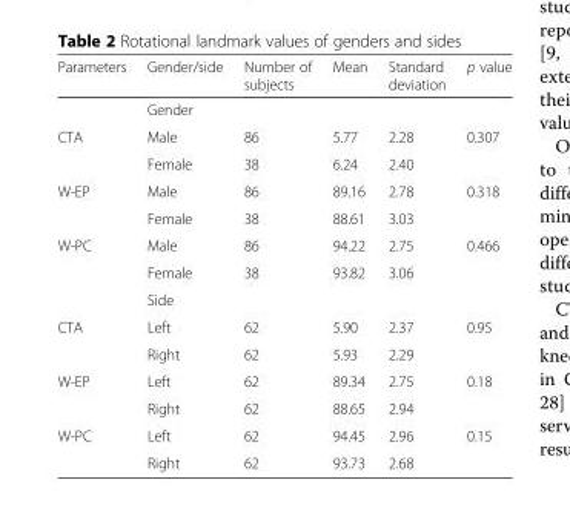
<table><thead><tr><td>Parameters</td><td>Gender/side</td><td>Number of subjects</td><td>Mean</td><td>Standard deviation</td><td>p value</td></tr></thead><tbody><tr><td></td><td>Gender</td><td></td><td></td><td></td><td></td></tr><tr><td rowspan="2">CTA</td><td>Male</td><td>86</td><td>5.77</td><td>2.28</td><td rowspan="2">0.307</td></tr><tr><td>Female</td><td>38</td><td>6.24</td><td>2.40</td></tr><tr><td rowspan="2">W-EP</td><td>Male</td><td>86</td><td>89.16</td><td>2.78</td><td rowspan="2">0.318</td></tr><tr><td>Female</td><td>38</td><td>88.61</td><td>3.03</td></tr><tr><td rowspan="3">W-PC</td><td>Male</td><td>86</td><td>94.22</td><td>2.75</td><td rowspan="2">0.466</td></tr><tr><td>Female</td><td>38</td><td>93.82</td><td>3.06</td></tr><tr><td>Side</td><td colspan="4"></td></tr><tr><td rowspan="2">CTA</td><td>Left</td><td>62</td><td>5.90</td><td>2.37</td><td rowspan="2">0.95</td></tr><tr><td>Right</td><td>62</td><td>5.93</td><td>2.29</td></tr><tr><td rowspan="2">W-EP</td><td>Left</td><td>62</td><td>89.34</td><td>2.75</td><td rowspan="2">0.18</td></tr><tr><td>Right</td><td>62</td><td>88.65</td><td>2.94</td></tr><tr><td rowspan="2">W-PC</td><td>Left</td><td>62</td><td>94.45</td><td>2.96</td><td rowspan="2">0.15</td></tr><tr><td>Right</td><td>62</td><td>93.73</td><td>2.68</td></tr></tbody></table>